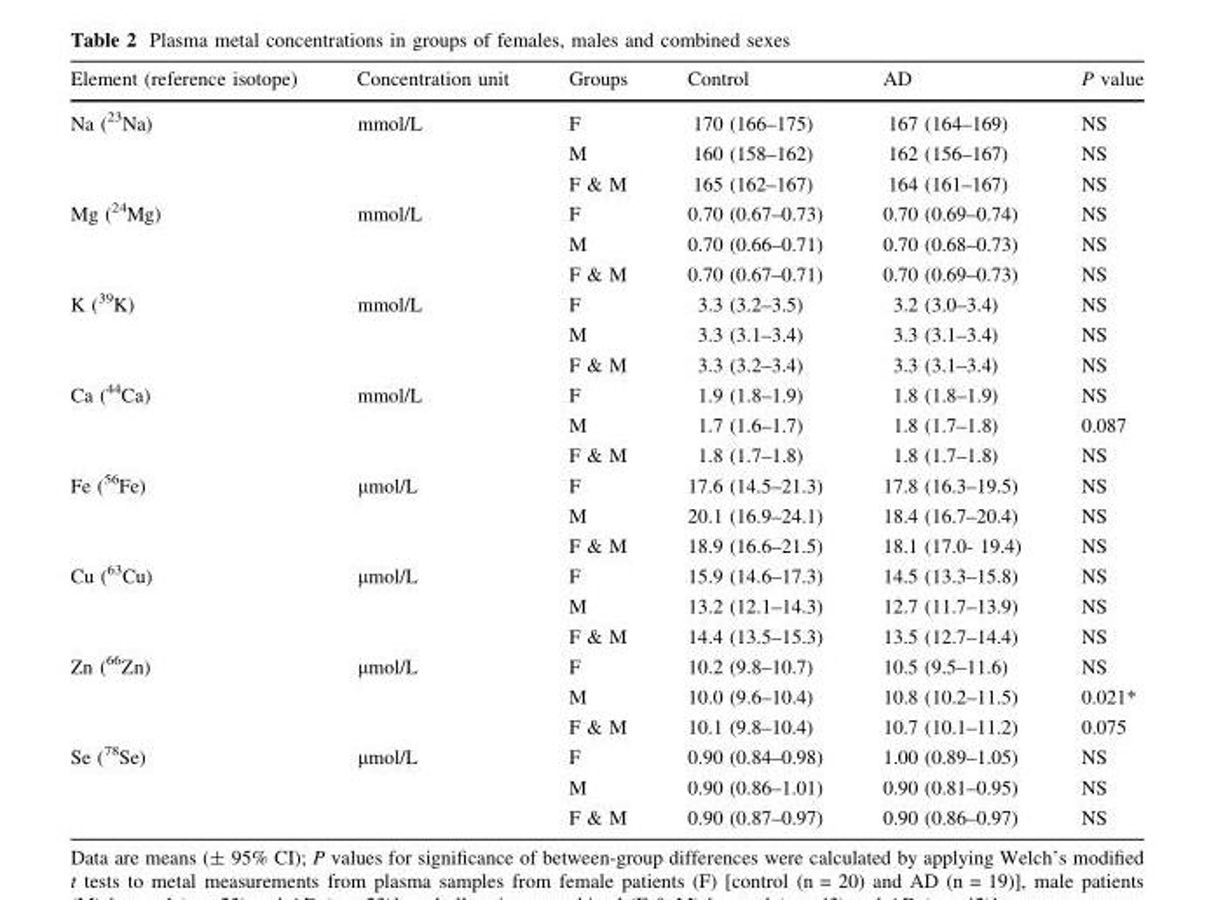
<table><thead><tr><td>Element (reference isotope)</td><td>Concentration unit</td><td>Groups</td><td>Control</td><td>AD</td><td>P value</td></tr></thead><tbody><tr><td rowspan="3">Na (<sup>23</sup>Na)</td><td rowspan="3">mmol/L</td><td>F</td><td>170 (166–175)</td><td>167 (164–169)</td><td>NS</td></tr><tr><td>M</td><td>160 (158–162)</td><td>162 (156–167)</td><td>NS</td></tr><tr><td>F &amp; M</td><td>165 (162–167)</td><td>164 (161–167)</td><td>NS</td></tr><tr><td rowspan="3">Mg (<sup>24</sup>Mg)</td><td rowspan="3">mmol/L</td><td>F</td><td>0.70 (0.67–0.73)</td><td>0.70 (0.69–0.74)</td><td>NS</td></tr><tr><td>M</td><td>0.70 (0.66–0.71)</td><td>0.70 (0.68–0.73)</td><td>NS</td></tr><tr><td>F &amp; M</td><td>0.70 (0.67–0.71)</td><td>0.70 (0.69–0.73)</td><td>NS</td></tr><tr><td rowspan="3">K (<sup>39</sup>K)</td><td rowspan="3">mmol/L</td><td>F</td><td>3.3 (3.2–3.5)</td><td>3.2 (3.0–3.4)</td><td>NS</td></tr><tr><td>M</td><td>3.3 (3.1–3.4)</td><td>3.3 (3.1–3.4)</td><td>NS</td></tr><tr><td>F &amp; M</td><td>3.3 (3.2–3.4)</td><td>3.3 (3.1–3.4)</td><td>NS</td></tr><tr><td rowspan="3">Ca (<sup>44</sup>Ca)</td><td rowspan="3">mmol/L</td><td>F</td><td>1.9 (1.8–1.9)</td><td>1.8 (1.8–1.9)</td><td>NS</td></tr><tr><td>M</td><td>1.7 (1.6–1.7)</td><td>1.8 (1.7–1.8)</td><td>0.087</td></tr><tr><td>F &amp; M</td><td>1.8 (1.7–1.8)</td><td>1.8 (1.7–1.8)</td><td>NS</td></tr><tr><td rowspan="3">Fe (<sup>56</sup>Fe)</td><td rowspan="3">μmol/L</td><td>F</td><td>17.6 (14.5–21.3)</td><td>17.8 (16.3–19.5)</td><td>NS</td></tr><tr><td>M</td><td>20.1 (16.9–24.1)</td><td>18.4 (16.7–20.4)</td><td>NS</td></tr><tr><td>F &amp; M</td><td>18.9 (16.6–21.5)</td><td>18.1 (17.0- 19.4)</td><td>NS</td></tr><tr><td rowspan="3">Cu (<sup>63</sup>Cu)</td><td rowspan="3">μmol/L</td><td>F</td><td>15.9 (14.6–17.3)</td><td>14.5 (13.3–15.8)</td><td>NS</td></tr><tr><td>M</td><td>13.2 (12.1–14.3)</td><td>12.7 (11.7–13.9)</td><td>NS</td></tr><tr><td>F &amp; M</td><td>14.4 (13.5–15.3)</td><td>13.5 (12.7–14.4)</td><td>NS</td></tr><tr><td rowspan="3">Zn (<sup>66</sup>Zn)</td><td rowspan="3">μmol/L</td><td>F</td><td>10.2 (9.8–10.7)</td><td>10.5 (9.5–11.6)</td><td>NS</td></tr><tr><td>M</td><td>10.0 (9.6–10.4)</td><td>10.8 (10.2–11.5)</td><td>0.021*</td></tr><tr><td>F &amp; M</td><td>10.1 (9.8–10.4)</td><td>10.7 (10.1–11.2)</td><td>0.075</td></tr><tr><td rowspan="3">Se (<sup>78</sup>Se)</td><td rowspan="3">μmol/L</td><td>F</td><td>0.90 (0.84–0.98)</td><td>1.00 (0.89–1.05)</td><td>NS</td></tr><tr><td>M</td><td>0.90 (0.86–1.01)</td><td>0.90 (0.81–0.95)</td><td>NS</td></tr><tr><td>F &amp; M</td><td>0.90 (0.87–0.97)</td><td>0.90 (0.86–0.97)</td><td>NS</td></tr></tbody></table>